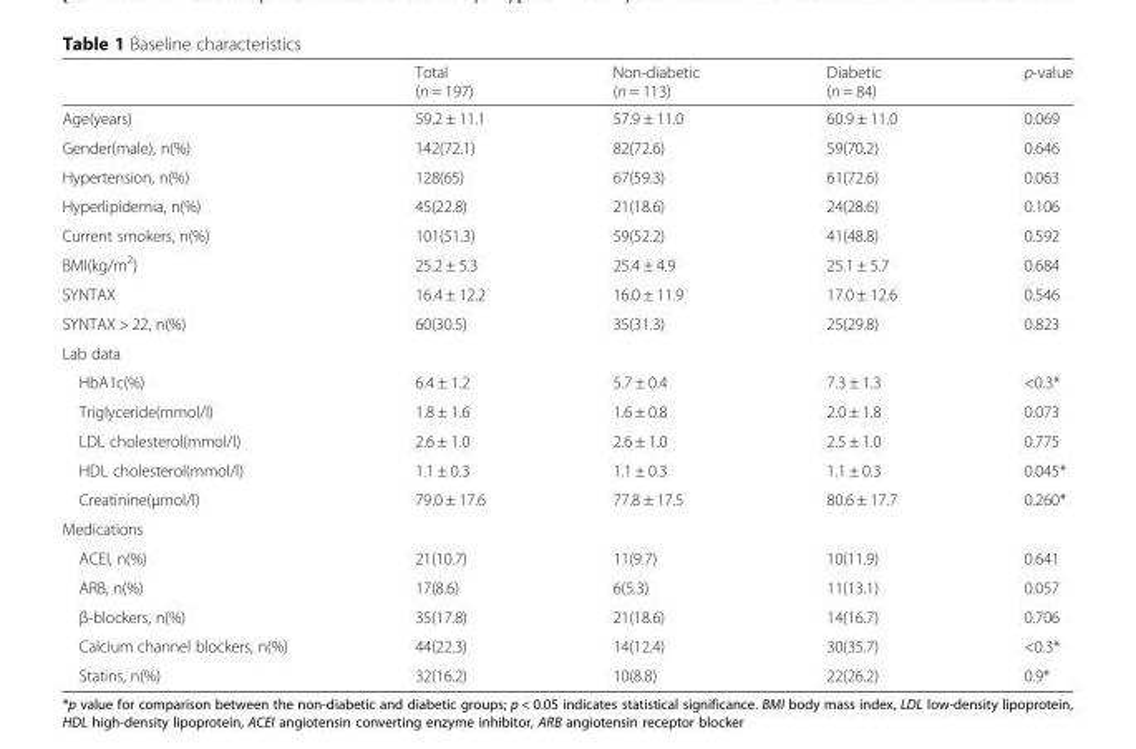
<table><thead><tr><td></td><td>Total (n = 197)</td><td>Non-diabetic (n = 113)</td><td>Diabetic (n = 84)</td><td>p-value</td></tr></thead><tbody><tr><td>Age(years)</td><td>59.2 ± 11.1</td><td>57.9 ± 11.0</td><td>60.9 ± 11.0</td><td>0.069</td></tr><tr><td>Gender(male), n(%)</td><td>142(72.1)</td><td>82(72.6)</td><td>59(70.2)</td><td>0.646</td></tr><tr><td>Hypertension, n(%)</td><td>128(65)</td><td>67(59.3)</td><td>61(72.6)</td><td>0.063</td></tr><tr><td>Hyperlipidemia, n(%)</td><td>45(22.8)</td><td>21(18.6)</td><td>24(28.6)</td><td>0.106</td></tr><tr><td>Current smokers, n(%)</td><td>101(51.3)</td><td>59(52.2)</td><td>41(48.8)</td><td>0.592</td></tr><tr><td>BMI(kg/m<sup>2</sup>)</td><td>25.2 ± 5.3</td><td>25.4 ± 4.9</td><td>25.1 ± 5.7</td><td>0.684</td></tr><tr><td>SYNTAX</td><td>16.4 ± 12.2</td><td>16.0 ± 11.9</td><td>17.0 ± 12.6</td><td>0.546</td></tr><tr><td>SYNTAX &gt; 22, n(%)</td><td>60(30.5)</td><td>35(31.3)</td><td>25(29.8)</td><td>0.823</td></tr><tr><td colspan="5">Lab data</td></tr><tr><td>HbA1c(%)</td><td>6.4 ± 1.2</td><td>5.7 ± 0.4</td><td>7.3 ± 1.3</td><td>&lt;0.3*</td></tr><tr><td>Triglyceride(mmol/l)</td><td>1.8 ± 1.6</td><td>1.6 ± 0.8</td><td>2.0 ± 1.8</td><td>0.073</td></tr><tr><td>LDL cholesterol(mmol/l)</td><td>2.6 ± 1.0</td><td>2.6 ± 1.0</td><td>2.5 ± 1.0</td><td>0.775</td></tr><tr><td>HDL cholesterol(mmol/l)</td><td>1.1 ± 0.3</td><td>1.1 ± 0.3</td><td>1.1 ± 0.3</td><td>0.045*</td></tr><tr><td>Creatinine(μmol/l)</td><td>79.0 ± 17.6</td><td>77.8 ± 17.5</td><td>80.6 ± 17.7</td><td>0.260*</td></tr><tr><td colspan="5">Medications</td></tr><tr><td>ACEI, n(%)</td><td>21(10.7)</td><td>11(9.7)</td><td>10(11.9)</td><td>0.641</td></tr><tr><td>ARB, n(%)</td><td>17(8.6)</td><td>6(5.3)</td><td>11(13.1)</td><td>0.057</td></tr><tr><td>β-blockers, n(%)</td><td>35(17.8)</td><td>21(18.6)</td><td>14(16.7)</td><td>0.706</td></tr><tr><td>Calcium channel blockers, n(%)</td><td>44(22.3)</td><td>14(12.4)</td><td>30(35.7)</td><td>&lt;0.3*</td></tr><tr><td>Statins, n(%)</td><td>32(16.2)</td><td>10(8.8)</td><td>22(26.2)</td><td>0.9*</td></tr></tbody></table>